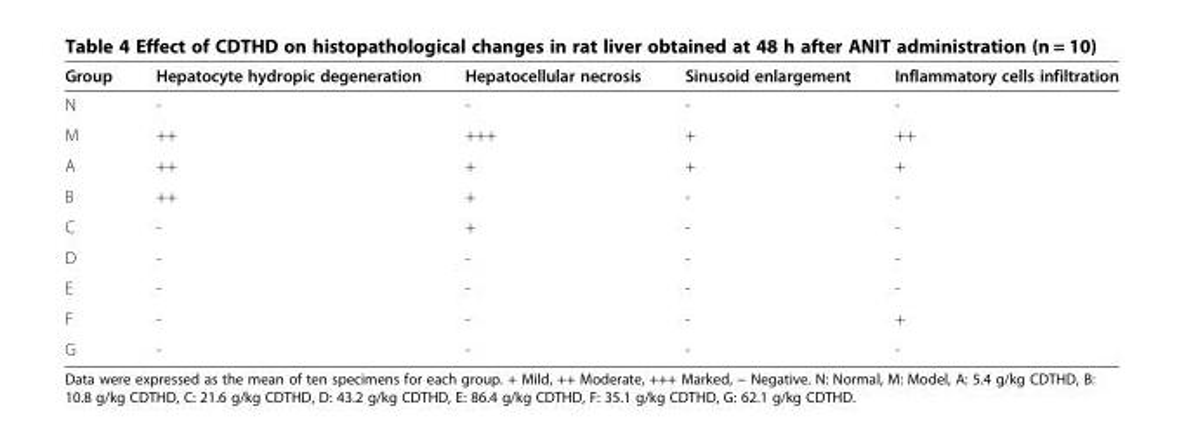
<table><thead><tr><td>Group</td><td>Hepatocyte hydropic degeneration</td><td>Hepatocellular necrosis</td><td>Sinusoid enlargement</td><td>Inflammatory cells infiltration</td></tr></thead><tbody><tr><td>N</td><td>-</td><td>-</td><td>-</td><td>-</td></tr><tr><td>M</td><td>++</td><td>+++</td><td>+</td><td>++</td></tr><tr><td>A</td><td>++</td><td>+</td><td>+</td><td>+</td></tr><tr><td>B</td><td>++</td><td>+</td><td>-</td><td>-</td></tr><tr><td>C</td><td>-</td><td>+</td><td>-</td><td>-</td></tr><tr><td>D</td><td>-</td><td>-</td><td>-</td><td>-</td></tr><tr><td>E</td><td>-</td><td>-</td><td>-</td><td>-</td></tr><tr><td>F</td><td>-</td><td>-</td><td>-</td><td>+</td></tr><tr><td>G</td><td>-</td><td>-</td><td>-</td><td>-</td></tr></tbody></table>